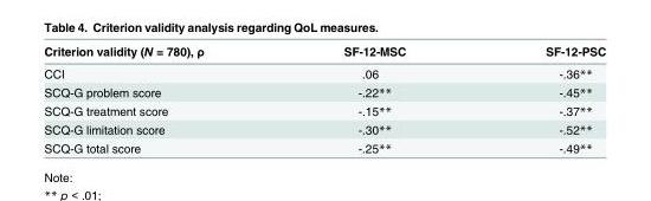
<table><thead><tr><td>Criterion validity (N = 780), ρ</td><td>SF-12-MSC</td><td>SF-12-PSC</td></tr></thead><tbody><tr><td>CCI</td><td>.06</td><td>-.36**</td></tr><tr><td>SCQ-G problem score</td><td>-.22**</td><td>-.45**</td></tr><tr><td>SCQ-G treatment score</td><td>-.15**</td><td>-.37**</td></tr><tr><td>SCQ-G limitation score</td><td>-.30**</td><td>-.52**</td></tr><tr><td>SCQ-G total score</td><td>-.25**</td><td>-.49**</td></tr></tbody></table>